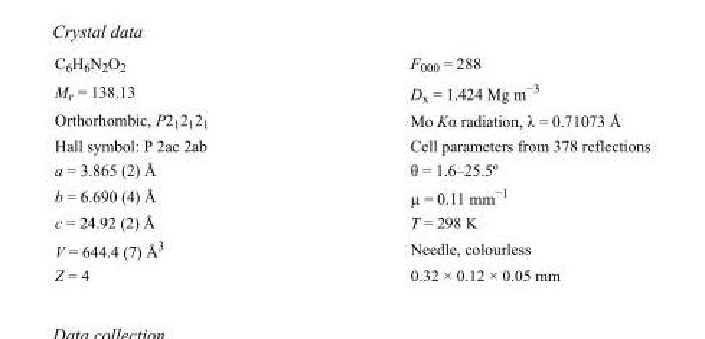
<table><tbody><tr><td>C<sub>6</sub>H<sub>6</sub>N<sub>2</sub>O<sub>2</sub></td><td>F000 = 288</td></tr><tr><td>M<sub>r</sub> = 138.13</td><td>D<sub>x</sub> = 1.424 Mg m<sup>−3</sup></td></tr><tr><td>Orthorhombic, P2<sub>1</sub>2<sub>1</sub>2<sub>1</sub></td><td>Mo Kα radiation, λ = 0.71073 Å</td></tr><tr><td>Hall symbol: P 2ac 2ab</td><td>Cell parameters from 378 reflections</td></tr><tr><td>a = 3.865 (2) Å</td><td>θ = 1.6–25.5º</td></tr><tr><td>b = 6.690 (4) Å</td><td>µ = 0.11 mm<sup>−1</sup></td></tr><tr><td>c = 24.92 (2) Å</td><td>T = 298 K</td></tr><tr><td>V = 644.4 (7) Å<sup>3</sup></td><td>Needle, colourless</td></tr><tr><td>Z = 4</td><td>0.32 × 0.12 × 0.05 mm</td></tr></tbody></table>